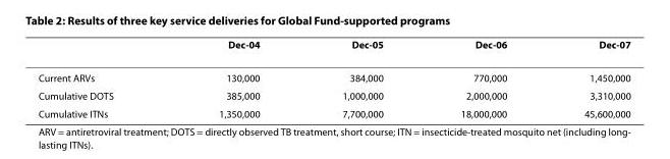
<table><thead><tr><td></td><td>Dec-04</td><td>Dec-05</td><td>Dec-06</td><td>Dec-07</td></tr></thead><tbody><tr><td>Current ARVs</td><td>130,000</td><td>384,000</td><td>770,000</td><td>1,450,000</td></tr><tr><td>Cumulative DOTS</td><td>385,000</td><td>1,000,000</td><td>2,000,000</td><td>3,310,000</td></tr><tr><td>Cumulative ITNs</td><td>1,350,000</td><td>7,700,000</td><td>18,000,000</td><td>45,600,000</td></tr></tbody></table>